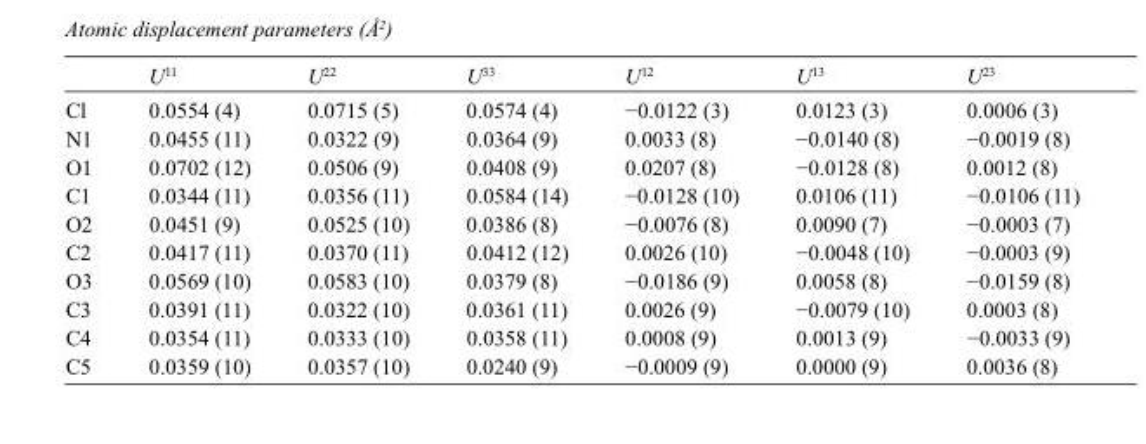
<table><thead><tr><td></td><td>U<sup>11</sup></td><td>U<sup>22</sup></td><td>U<sup>33</sup></td><td>U<sup>12</sup></td><td>U<sup>13</sup></td><td>U<sup>23</sup></td></tr></thead><tbody><tr><td>Cl</td><td>0.0554 (4)</td><td>0.0715 (5)</td><td>0.0574 (4)</td><td>−0.0122 (3)</td><td>0.0123 (3)</td><td>0.0006 (3)</td></tr><tr><td>N1</td><td>0.0455 (11)</td><td>0.0322 (9)</td><td>0.0364 (9)</td><td>0.0033 (8)</td><td>−0.0140 (8)</td><td>−0.0019 (8)</td></tr><tr><td>O1</td><td>0.0702 (12)</td><td>0.0506 (9)</td><td>0.0408 (9)</td><td>0.0207 (8)</td><td>−0.0128 (8)</td><td>0.0012 (8)</td></tr><tr><td>C1</td><td>0.0344 (11)</td><td>0.0356 (11)</td><td>0.0584 (14)</td><td>−0.0128 (10)</td><td>0.0106 (11)</td><td>−0.0106 (11)</td></tr><tr><td>O2</td><td>0.0451 (9)</td><td>0.0525 (10)</td><td>0.0386 (8)</td><td>−0.0076 (8)</td><td>0.0090 (7)</td><td>−0.0003 (7)</td></tr><tr><td>C2</td><td>0.0417 (11)</td><td>0.0370 (11)</td><td>0.0412 (12)</td><td>0.0026 (10)</td><td>−0.0048 (10)</td><td>−0.0003 (9)</td></tr><tr><td>O3</td><td>0.0569 (10)</td><td>0.0583 (10)</td><td>0.0379 (8)</td><td>−0.0186 (9)</td><td>0.0058 (8)</td><td>−0.0159 (8)</td></tr><tr><td>C3</td><td>0.0391 (11)</td><td>0.0322 (10)</td><td>0.0361 (11)</td><td>0.0026 (9)</td><td>−0.0079 (10)</td><td>0.0003 (8)</td></tr><tr><td>C4</td><td>0.0354 (11)</td><td>0.0333 (10)</td><td>0.0358 (11)</td><td>0.0008 (9)</td><td>0.0013 (9)</td><td>−0.0033 (9)</td></tr><tr><td>C5</td><td>0.0359 (10)</td><td>0.0357 (10)</td><td>0.0240 (9)</td><td>−0.0009 (9)</td><td>0.0000 (9)</td><td>0.0036 (8)</td></tr></tbody></table>